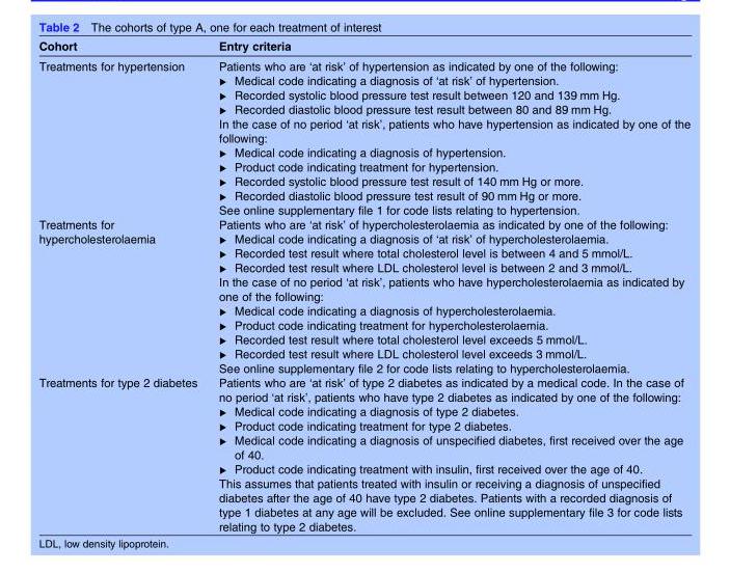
<table><thead><tr><td>Cohort</td><td>Entry criteria</td></tr></thead><tbody><tr><td>Treatments for hypertension</td><td>Patients who are ‘at risk’ of hypertension as indicated by one of the following: ▸ Medical code indicating a diagnosis of ‘at risk’ of hypertension. ▸ Recorded systolic blood pressure test result between 120 and 139 mm Hg. ▸ Recorded diastolic blood pressure test result between 80 and 89 mm Hg. In the case of no period ‘at risk’, patients who have hypertension as indicated by one of the following: ▸ Medical code indicating a diagnosis of hypertension. ▸ Product code indicating treatment for hypertension. ▸ Recorded systolic blood pressure test result of 140 mm Hg or more. ▸ Recorded diastolic blood pressure test result of 90 mm Hg or more. See online supplementary file 1 for code lists relating to hypertension.</td></tr><tr><td>Treatments for hypercholesterolaemia</td><td>Patients who are ‘at risk’ of hypercholesterolaemia as indicated by one of the following: ▸ Medical code indicating a diagnosis of ‘at risk’ of hypercholesterolaemia. ▸ Recorded test result where total cholesterol level is between 4 and 5 mmol/L. ▸ Recorded test result where LDL cholesterol level is between 2 and 3 mmol/L. In the case of no period ‘at risk’, patients who have hypercholesterolaemia as indicated by one of the following: ▸ Medical code indicating a diagnosis of hypercholesterolaemia. ▸ Product code indicating treatment for hypercholesterolaemia. ▸ Recorded test result where total cholesterol level exceeds 5 mmol/L. ▸ Recorded test result where LDL cholesterol level exceeds 3 mmol/L. See online supplementary file 2 for code lists relating to hypercholesterolaemia.</td></tr><tr><td>Treatments for type 2 diabetes</td><td>Patients who are ‘at risk’ of type 2 diabetes as indicated by a medical code. In the case of no period ‘at risk’, patients who have type 2 diabetes as indicated by one of the following: ▸ Medical code indicating a diagnosis of type 2 diabetes. ▸ Product code indicating treatment for type 2 diabetes. ▸ Medical code indicating a diagnosis of unspecified diabetes, first received over the age of 40. ▸ Product code indicating treatment with insulin, first received over the age of 40. This assumes that patients treated with insulin or receiving a diagnosis of unspecified diabetes after the age of 40 have type 2 diabetes. Patients with a recorded diagnosis of type 1 diabetes at any age will be excluded. See online supplementary file 3 for code lists relating to type 2 diabetes.</td></tr></tbody></table>